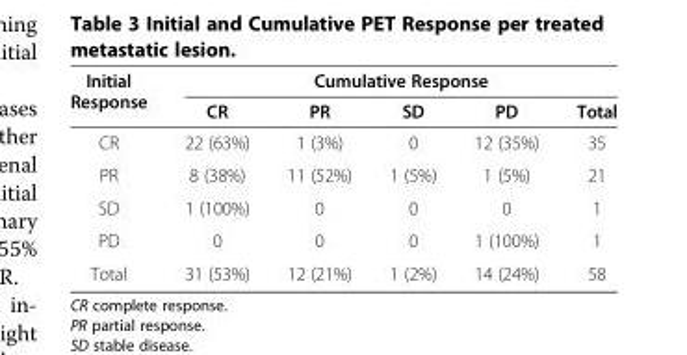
<table><thead><tr><td rowspan="2">Initial Response</td><td colspan="5">Cumulative Response</td></tr><tr><td>CR</td><td>PR</td><td>SD</td><td>PD</td><td>Total</td></tr></thead><tbody><tr><td>CR</td><td>22 (63%)</td><td>1 (3%)</td><td>0</td><td>12 (35%)</td><td>35</td></tr><tr><td>PR</td><td>8 (38%)</td><td>11 (52%)</td><td>1 (5%)</td><td>1 (5%)</td><td>21</td></tr><tr><td>SD</td><td>1 (100%)</td><td>0</td><td>0</td><td>0</td><td>1</td></tr><tr><td>PD</td><td>0</td><td>0</td><td>0</td><td>1 (100%)</td><td>1</td></tr><tr><td>Total</td><td>31 (53%)</td><td>12 (21%)</td><td>1 (2%)</td><td>14 (24%)</td><td>58</td></tr></tbody></table>